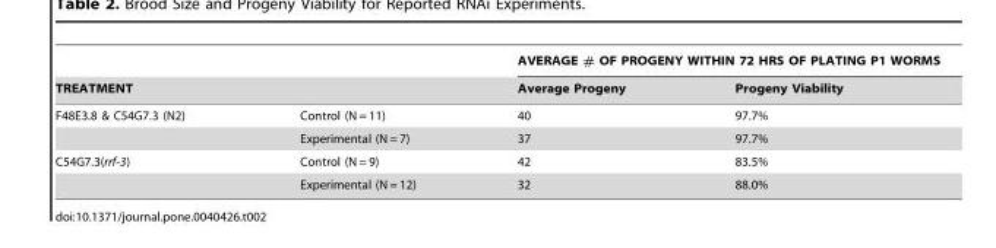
<table><thead><tr><td></td><td></td><td colspan="2">AVERAGE # OF PROGENY WITHIN 72 HRS OF PLATING P1 WORMS</td></tr><tr><td colspan="2">TREATMENT</td><td>Average Progeny</td><td>Progeny Viability</td></tr></thead><tbody><tr><td rowspan="2">F48E3.8 &amp; C54G7.3 (N2)</td><td>Control (N = 11)</td><td>40</td><td>97.7%</td></tr><tr><td>Experimental (N = 7)</td><td>37</td><td>97.7%</td></tr><tr><td rowspan="2">C54G7.3(rrf-3)</td><td>Control (N = 9)</td><td>42</td><td>83.5%</td></tr><tr><td>Experimental (N = 12)</td><td>32</td><td>88.0%</td></tr></tbody></table>